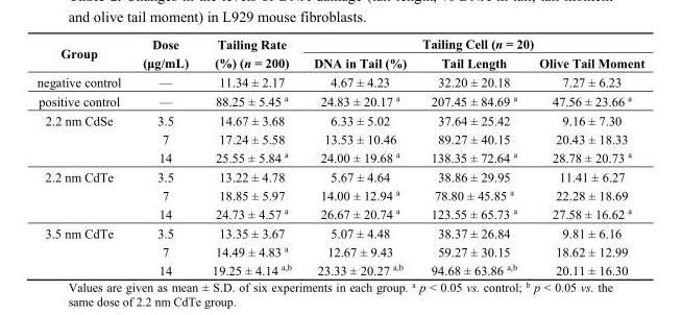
<table><thead><tr><td rowspan="2">Group</td><td rowspan="2">Dose (μg/mL)</td><td rowspan="2">Tailing Rate (%) (n = 200)</td><td colspan="3">Tailing Cell (n = 20)</td></tr><tr><td>DNA in Tail (%)</td><td>Tail Length</td><td>Olive Tail Moment</td></tr></thead><tbody><tr><td>negative control</td><td>—</td><td>11.34 ± 2.17</td><td>4.67 ± 4.23</td><td>32.20 ± 20.18</td><td>7.27 ± 6.23</td></tr><tr><td>positive control</td><td>—</td><td>88.25 ± 5.45 <sup>a</sup></td><td>24.83 ± 20.17 <sup>a</sup></td><td>207.45 ± 84.69 <sup>a</sup></td><td>47.56 ± 23.66 <sup>a</sup></td></tr><tr><td rowspan="3">2.2 nm CdSe</td><td>3.5</td><td>14.67 ± 3.68</td><td>6.33 ± 5.02</td><td>37.64 ± 25.42</td><td>9.16 ± 7.30</td></tr><tr><td>7</td><td>17.24 ± 5.58</td><td>13.53 ± 10.46</td><td>89.27 ± 40.15</td><td>20.43 ± 18.33</td></tr><tr><td>14</td><td>25.55 ± 5.84 <sup>a</sup></td><td>24.00 ± 19.68 <sup>a</sup></td><td>138.35 ± 72.64 <sup>a</sup></td><td>28.78 ± 20.73 <sup>a</sup></td></tr><tr><td rowspan="3">2.2 nm CdTe</td><td>3.5</td><td>13.22 ± 4.78</td><td>5.67 ± 4.64</td><td>38.86 ± 29.95</td><td>11.41 ± 6.27</td></tr><tr><td>7</td><td>18.85 ± 5.97</td><td>14.00 ± 12.94 <sup>a</sup></td><td>78.80 ± 45.85 <sup>a</sup></td><td>22.28 ± 18.69</td></tr><tr><td>14</td><td>24.73 ± 4.57 <sup>a</sup></td><td>26.67 ± 20.74 <sup>a</sup></td><td>123.55 ± 65.73 <sup>a</sup></td><td>27.58 ± 16.62 <sup>a</sup></td></tr><tr><td rowspan="3">3.5 nm CdTe</td><td>3.5</td><td>13.35 ± 3.67</td><td>5.07 ± 4.48</td><td>38.37 ± 26.84</td><td>9.81 ± 6.16</td></tr><tr><td>7</td><td>14.49 ± 4.83 <sup>a</sup></td><td>12.67 ± 9.43</td><td>59.27 ± 30.15</td><td>18.62 ± 12.99</td></tr><tr><td>14</td><td>19.25 ± 4.14 <sup>a,b</sup></td><td>23.33 ± 20.27 <sup>a,b</sup></td><td>94.68 ± 63.86 <sup>a,b</sup></td><td>20.11 ± 16.30</td></tr></tbody></table>